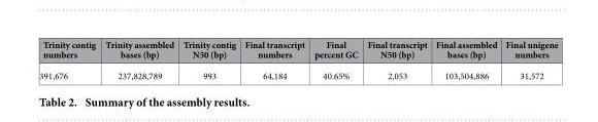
<table><thead><tr><td>Trinity contig numbers</td><td>Trinity assembled bases (bp)</td><td>Trinity contig N50 (bp)</td><td>Final transcript numbers</td><td>Final percent GC</td><td>Final transcript N50 (bp)</td><td>Final assembled bases (bp)</td><td>Final unigene numbers</td></tr></thead><tbody><tr><td>391,676</td><td>237,828,789</td><td>993</td><td>64,184</td><td>40.65%</td><td>2,053</td><td>103,504,886</td><td>31,572</td></tr></tbody></table>